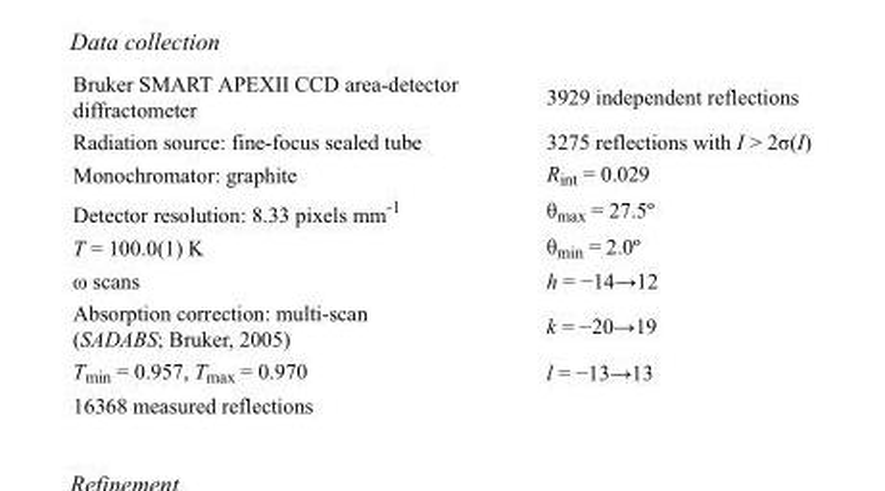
<table><tbody><tr><td>Bruker SMART APEXII CCD area-detector diffractometer</td><td>3929 independent reflections</td></tr><tr><td>Radiation source: fine-focus sealed tube</td><td>3275 reflections with I &gt; 2σ(I)</td></tr><tr><td>Monochromator: graphite</td><td>R<sub>int</sub> = 0.029</td></tr><tr><td>Detector resolution: 8.33 pixels mm<sup>-1</sup></td><td>θ<sub>max</sub> = 27.5º</td></tr><tr><td>T = 100.0(1) K</td><td>θ<sub>min</sub> = 2.0º</td></tr><tr><td>ω scans</td><td>h = −14→12</td></tr><tr><td>Absorption correction: multi-scan (SADABS; Bruker, 2005)</td><td>k = −20→19</td></tr><tr><td>T<sub>min</sub> = 0.957, T<sub>max</sub> = 0.970</td><td>l = −13→13</td></tr><tr><td>16368 measured reflections</td><td></td></tr></tbody></table>